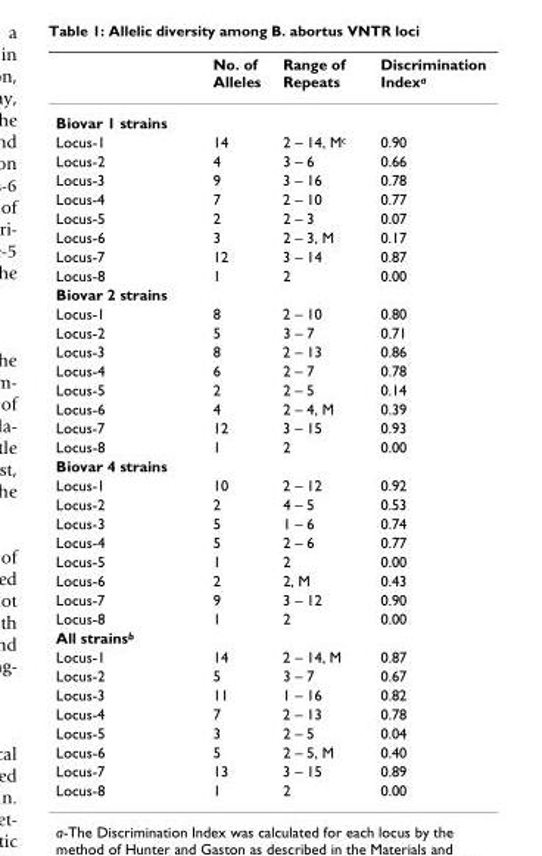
<table><thead><tr><td></td><td>No. of Alleles</td><td>Range of Repeats</td><td>Discrimination Indexa</td></tr></thead><tbody><tr><td colspan="4">Biovar 1 strains</td></tr><tr><td>Locus-1</td><td>14</td><td>2 – 14, Mc</td><td>0.90</td></tr><tr><td>Locus-2</td><td>4</td><td>3 – 6</td><td>0.66</td></tr><tr><td>Locus-3</td><td>9</td><td>3 – 16</td><td>0.78</td></tr><tr><td>Locus-4</td><td>7</td><td>2 – 10</td><td>0.77</td></tr><tr><td>Locus-5</td><td>2</td><td>2 – 3</td><td>0.07</td></tr><tr><td>Locus-6</td><td>3</td><td>2 – 3, M</td><td>0.17</td></tr><tr><td>Locus-7</td><td>12</td><td>3 – 14</td><td>0.87</td></tr><tr><td>Locus-8</td><td>1</td><td>2</td><td>0.00</td></tr><tr><td colspan="4">Biovar 2 strains</td></tr><tr><td>Locus-1</td><td>8</td><td>2 – 10</td><td>0.80</td></tr><tr><td>Locus-2</td><td>5</td><td>3 – 7</td><td>0.71</td></tr><tr><td>Locus-3</td><td>8</td><td>2 – 13</td><td>0.86</td></tr><tr><td>Locus-4</td><td>6</td><td>2 – 7</td><td>0.78</td></tr><tr><td>Locus-5</td><td>2</td><td>2 – 5</td><td>0.14</td></tr><tr><td>Locus-6</td><td>4</td><td>2 – 4, M</td><td>0.39</td></tr><tr><td>Locus-7</td><td>12</td><td>3 – 15</td><td>0.93</td></tr><tr><td>Locus-8</td><td>1</td><td>2</td><td>0.00</td></tr><tr><td colspan="4">Biovar 4 strains</td></tr><tr><td>Locus-1</td><td>10</td><td>2 – 12</td><td>0.92</td></tr><tr><td>Locus-2</td><td>2</td><td>4 – 5</td><td>0.53</td></tr><tr><td>Locus-3</td><td>5</td><td>1 – 6</td><td>0.74</td></tr><tr><td>Locus-4</td><td>5</td><td>2 – 6</td><td>0.77</td></tr><tr><td>Locus-5</td><td>1</td><td>2</td><td>0.00</td></tr><tr><td>Locus-6</td><td>2</td><td>2, M</td><td>0.43</td></tr><tr><td>Locus-7</td><td>9</td><td>3 – 12</td><td>0.90</td></tr><tr><td>Locus-8</td><td>1</td><td>2</td><td>0.00</td></tr><tr><td colspan="4">All strainsb</td></tr><tr><td>Locus-1</td><td>14</td><td>2 – 14, M</td><td>0.87</td></tr><tr><td>Locus-2</td><td>5</td><td>3 – 7</td><td>0.67</td></tr><tr><td>Locus-3</td><td>11</td><td>1 – 16</td><td>0.82</td></tr><tr><td>Locus-4</td><td>7</td><td>2 – 13</td><td>0.78</td></tr><tr><td>Locus-5</td><td>3</td><td>2 – 5</td><td>0.04</td></tr><tr><td>Locus-6</td><td>5</td><td>2 – 5, M</td><td>0.40</td></tr><tr><td>Locus-7</td><td>13</td><td>3 – 15</td><td>0.89</td></tr><tr><td>Locus-8</td><td>1</td><td>2</td><td>0.00</td></tr></tbody></table>